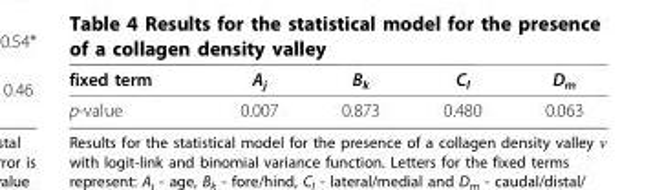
<table><thead><tr><td>fixed term</td><td>A<sub>j</sub></td><td>B<sub>k</sub></td><td>C<sub>l</sub></td><td>D<sub>m</sub></td></tr></thead><tbody><tr><td>p-value</td><td>0.007</td><td>0.873</td><td>0.480</td><td>0.063</td></tr></tbody></table>